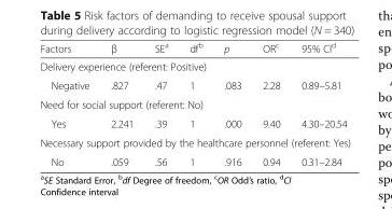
<table><thead><tr><td>Factors</td><td>β</td><td>SE<sup>a</sup></td><td>df<sup>b</sup></td><td>p</td><td>OR<sup>c</sup></td><td>95% Cl<sup>d</sup></td></tr></thead><tbody><tr><td colspan="7">Delivery experience (referent: Positive)</td></tr><tr><td>Negative</td><td>.827</td><td>.47</td><td>1</td><td>.083</td><td>2.28</td><td>0.89–5.81</td></tr><tr><td colspan="7">Need for social support (referent: No)</td></tr><tr><td>Yes</td><td>2.241</td><td>.39</td><td>1</td><td>.000</td><td>9.40</td><td>4.30–20.54</td></tr><tr><td colspan="7">Necessary support provided by the healthcare personnel (referent: Yes)</td></tr><tr><td>No</td><td>.059</td><td>.56</td><td>1</td><td>.916</td><td>0.94</td><td>0.31–2.84</td></tr></tbody></table>